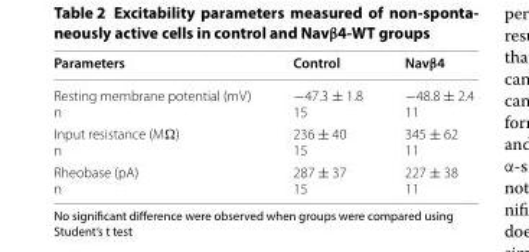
<table><thead><tr><td>Parameters</td><td>Control</td><td>Navβ4</td></tr></thead><tbody><tr><td>Resting membrane potential (mV) n</td><td>−47.3 ± 1.8 15</td><td>−48.8 ± 2.4 11</td></tr><tr><td>Input resistance (MΩ) n</td><td>236 ± 40 15</td><td>345 ± 62 11</td></tr><tr><td>Rheobase (pA) n</td><td>287 ± 37 15</td><td>227 ± 38 11</td></tr></tbody></table>